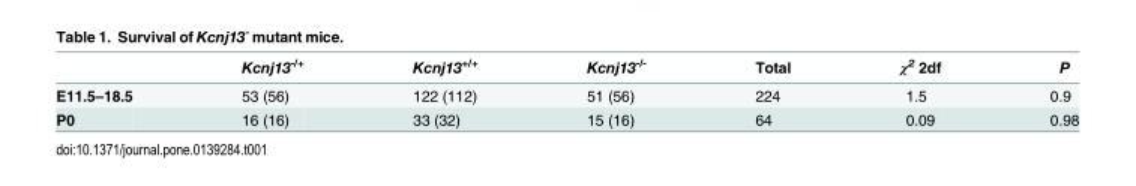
<table><thead><tr><td></td><td>Kcnj13<sup>-/+</sup></td><td>Kcnj13<sup>+/+</sup></td><td>Kcnj13<sup>-/-</sup></td><td>Total</td><td>χ<sup>2</sup> 2df</td><td>P</td></tr></thead><tbody><tr><td>E11.5–18.5</td><td>53 (56)</td><td>122 (112)</td><td>51 (56)</td><td>224</td><td>1.5</td><td>0.9</td></tr><tr><td>P0</td><td>16 (16)</td><td>33 (32)</td><td>15 (16)</td><td>64</td><td>0.09</td><td>0.98</td></tr></tbody></table>